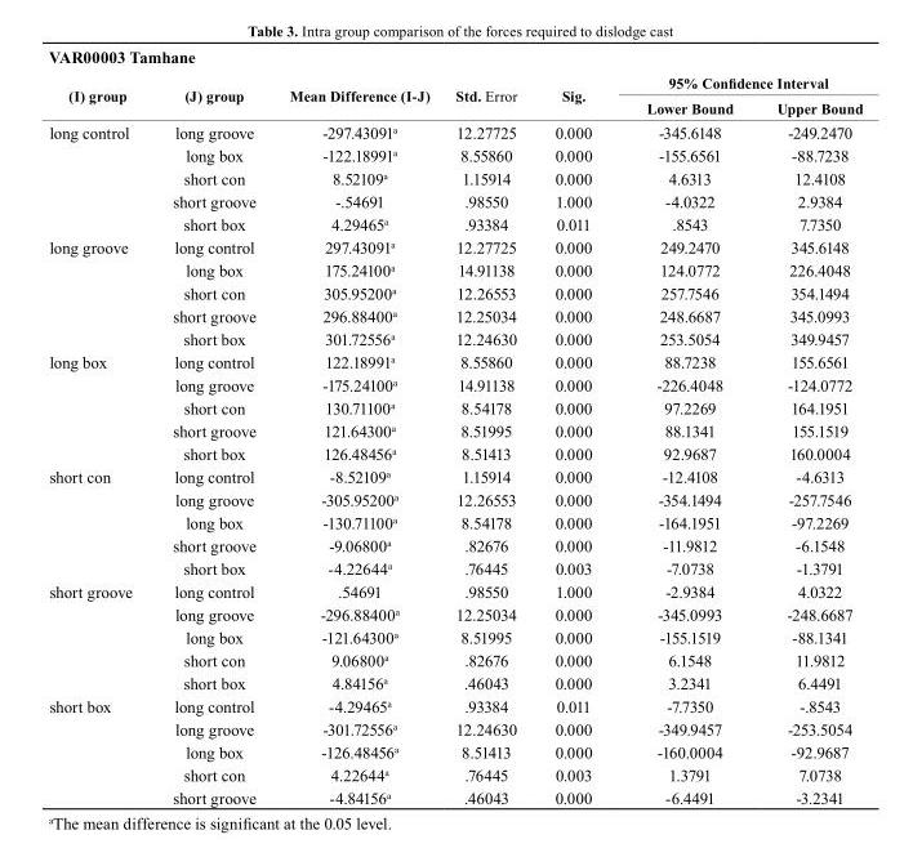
<table><thead><tr><td colspan="7">VAr00003 tamhane</td></tr><tr><td rowspan="2">(I) group</td><td rowspan="2">(J) group</td><td rowspan="2">Mean Difference (I-J)</td><td rowspan="2">std. Error</td><td rowspan="2">sig.</td><td colspan="2">95% Confidence Interval</td></tr><tr><td>Lower bound</td><td>Upper bound</td></tr></thead><tbody><tr><td rowspan="5">long control</td><td>long groove</td><td>-297.43091<sup>a</sup></td><td>12.27725</td><td>0.000</td><td>-345.6148</td><td>-249.2470</td></tr><tr><td>long box</td><td>-122.18991<sup>a</sup></td><td>8.55860</td><td>0.000</td><td>-155.6561</td><td>-88.7238</td></tr><tr><td>short con</td><td>8.52109<sup>a</sup></td><td>1.15914</td><td>0.000</td><td>4.6313</td><td>12.4108</td></tr><tr><td>short groove</td><td>-.54691</td><td>.98550</td><td>1.000</td><td>-4.0322</td><td>2.9384</td></tr><tr><td>short box</td><td>4.29465<sup>a</sup></td><td>.93384</td><td>0.011</td><td>.8543</td><td>7.7350</td></tr><tr><td rowspan="5">long groove</td><td>long control</td><td>297.43091<sup>a</sup></td><td>12.27725</td><td>0.000</td><td>249.2470</td><td>345.6148</td></tr><tr><td>long box</td><td>175.24100<sup>a</sup></td><td>14.91138</td><td>0.000</td><td>124.0772</td><td>226.4048</td></tr><tr><td>short con</td><td>305.95200<sup>a</sup></td><td>12.26553</td><td>0.000</td><td>257.7546</td><td>354.1494</td></tr><tr><td>short groove</td><td>296.88400<sup>a</sup></td><td>12.25034</td><td>0.000</td><td>248.6687</td><td>345.0993</td></tr><tr><td>short box</td><td>301.72556<sup>a</sup></td><td>12.24630</td><td>0.000</td><td>253.5054</td><td>349.9457</td></tr><tr><td rowspan="5">long box</td><td>long control</td><td>122.18991<sup>a</sup></td><td>8.55860</td><td>0.000</td><td>88.7238</td><td>155.6561</td></tr><tr><td>long groove</td><td>-175.24100<sup>a</sup></td><td>14.91138</td><td>0.000</td><td>-226.4048</td><td>-124.0772</td></tr><tr><td>short con</td><td>130.71100<sup>a</sup></td><td>8.54178</td><td>0.000</td><td>97.2269</td><td>164.1951</td></tr><tr><td>short groove</td><td>121.64300<sup>a</sup></td><td>8.51995</td><td>0.000</td><td>88.1341</td><td>155.1519</td></tr><tr><td>short box</td><td>126.48456<sup>a</sup></td><td>8.51413</td><td>0.000</td><td>92.9687</td><td>160.0004</td></tr><tr><td rowspan="5">short con</td><td>long control</td><td>-8.52109<sup>a</sup></td><td>1.15914</td><td>0.000</td><td>-12.4108</td><td>-4.6313</td></tr><tr><td>long groove</td><td>-305.95200<sup>a</sup></td><td>12.26553</td><td>0.000</td><td>-354.1494</td><td>-257.7546</td></tr><tr><td>long box</td><td>-130.71100<sup>a</sup></td><td>8.54178</td><td>0.000</td><td>-164.1951</td><td>-97.2269</td></tr><tr><td>short groove</td><td>-9.06800<sup>a</sup></td><td>.82676</td><td>0.000</td><td>-11.9812</td><td>-6.1548</td></tr><tr><td>short box</td><td>-4.22644<sup>a</sup></td><td>.76445</td><td>0.003</td><td>-7.0738</td><td>-1.3791</td></tr><tr><td rowspan="5">short groove</td><td>long control</td><td>.54691</td><td>.98550</td><td>1.000</td><td>-2.9384</td><td>4.0322</td></tr><tr><td>long groove</td><td>-296.88400<sup>a</sup></td><td>12.25034</td><td>0.000</td><td>-345.0993</td><td>-248.6687</td></tr><tr><td>long box</td><td>-121.64300<sup>a</sup></td><td>8.51995</td><td>0.000</td><td>-155.1519</td><td>-88.1341</td></tr><tr><td>short con</td><td>9.06800<sup>a</sup></td><td>.82676</td><td>0.000</td><td>6.1548</td><td>11.9812</td></tr><tr><td>short box</td><td>4.84156<sup>a</sup></td><td>.46043</td><td>0.000</td><td>3.2341</td><td>6.4491</td></tr><tr><td rowspan="5">short box</td><td>long control</td><td>-4.29465<sup>a</sup></td><td>.93384</td><td>0.011</td><td>-7.7350</td><td>-.8543</td></tr><tr><td>long groove</td><td>-301.72556<sup>a</sup></td><td>12.24630</td><td>0.000</td><td>-349.9457</td><td>-253.5054</td></tr><tr><td>long box</td><td>-126.48456<sup>a</sup></td><td>8.51413</td><td>0.000</td><td>-160.0004</td><td>-92.9687</td></tr><tr><td>short con</td><td>4.22644<sup>a</sup></td><td>.76445</td><td>0.003</td><td>1.3791</td><td>7.0738</td></tr><tr><td>short groove</td><td>-4.84156<sup>a</sup></td><td>.46043</td><td>0.000</td><td>-6.4491</td><td>-3.2341</td></tr></tbody></table>